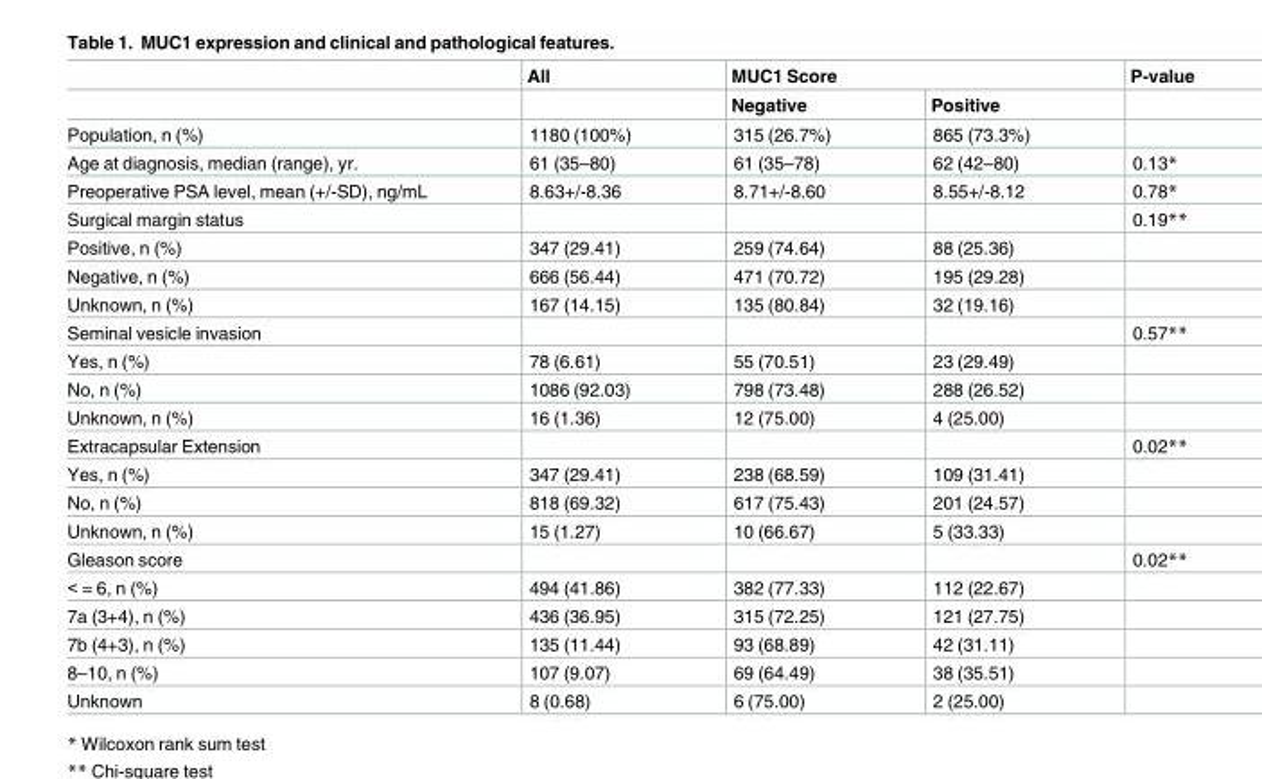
<table><thead><tr><td rowspan="2"></td><td rowspan="2">All</td><td colspan="2">MUC1 Score</td><td rowspan="2">P-value</td></tr><tr><td>Negative</td><td>Positive</td></tr></thead><tbody><tr><td>Population, n (%)</td><td>1180 (100%)</td><td>315 (26.7%)</td><td>865 (73.3%)</td><td></td></tr><tr><td>Age at diagnosis, median (range), yr.</td><td>61 (35–80)</td><td>61 (35–78)</td><td>62 (42–80)</td><td>0.13*</td></tr><tr><td>Preoperative PSA level, mean (+/-SD), ng/mL</td><td>8.63+/-8.36</td><td>8.71+/-8.60</td><td>8.55+/-8.12</td><td>0.78*</td></tr><tr><td>Surgical margin status</td><td></td><td></td><td></td><td>0.19**</td></tr><tr><td>Positive, n (%)</td><td>347 (29.41)</td><td>259 (74.64)</td><td>88 (25.36)</td><td></td></tr><tr><td>Negative, n (%)</td><td>666 (56.44)</td><td>471 (70.72)</td><td>195 (29.28)</td><td></td></tr><tr><td>Unknown, n (%)</td><td>167 (14.15)</td><td>135 (80.84)</td><td>32 (19.16)</td><td></td></tr><tr><td>Seminal vesicle invasion</td><td></td><td></td><td></td><td>0.57**</td></tr><tr><td>Yes, n (%)</td><td>78 (6.61)</td><td>55 (70.51)</td><td>23 (29.49)</td><td></td></tr><tr><td>No, n (%)</td><td>1086 (92.03)</td><td>798 (73.48)</td><td>288 (26.52)</td><td></td></tr><tr><td>Unknown, n (%)</td><td>16 (1.36)</td><td>12 (75.00)</td><td>4 (25.00)</td><td></td></tr><tr><td>Extracapsular Extension</td><td></td><td></td><td></td><td>0.02**</td></tr><tr><td>Yes, n (%)</td><td>347 (29.41)</td><td>238 (68.59)</td><td>109 (31.41)</td><td></td></tr><tr><td>No, n (%)</td><td>818 (69.32)</td><td>617 (75.43)</td><td>201 (24.57)</td><td></td></tr><tr><td>Unknown, n (%)</td><td>15 (1.27)</td><td>10 (66.67)</td><td>5 (33.33)</td><td></td></tr><tr><td>Gleason score</td><td></td><td></td><td></td><td>0.02**</td></tr><tr><td>&lt; = 6, n (%)</td><td>494 (41.86)</td><td>382 (77.33)</td><td>112 (22.67)</td><td></td></tr><tr><td>7a (3+4), n (%)</td><td>436 (36.95)</td><td>315 (72.25)</td><td>121 (27.75)</td><td></td></tr><tr><td>7b (4+3), n (%)</td><td>135 (11.44)</td><td>93 (68.89)</td><td>42 (31.11)</td><td></td></tr><tr><td>8–10, n (%)</td><td>107 (9.07)</td><td>69 (64.49)</td><td>38 (35.51)</td><td></td></tr><tr><td>Unknown</td><td>8 (0.68)</td><td>6 (75.00)</td><td>2 (25.00)</td><td></td></tr></tbody></table>